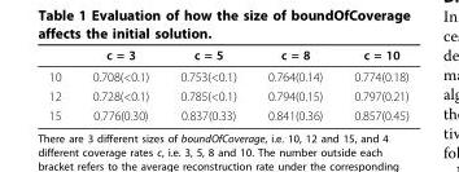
<table><thead><tr><td></td><td>c = 3</td><td>c = 5</td><td>c = 8</td><td>c = 10</td></tr></thead><tbody><tr><td>10</td><td>0.708(&lt;0.1)</td><td>0.753(&lt;0.1)</td><td>0.764(0.14)</td><td>0.774(0.18)</td></tr><tr><td>12</td><td>0.728(&lt;0.1)</td><td>0.785(&lt;0.1)</td><td>0.794(0.15)</td><td>0.797(0.21)</td></tr><tr><td>15</td><td>0.776(0.30)</td><td>0.837(0.33)</td><td>0.841(0.36)</td><td>0.857(0.45)</td></tr></tbody></table>